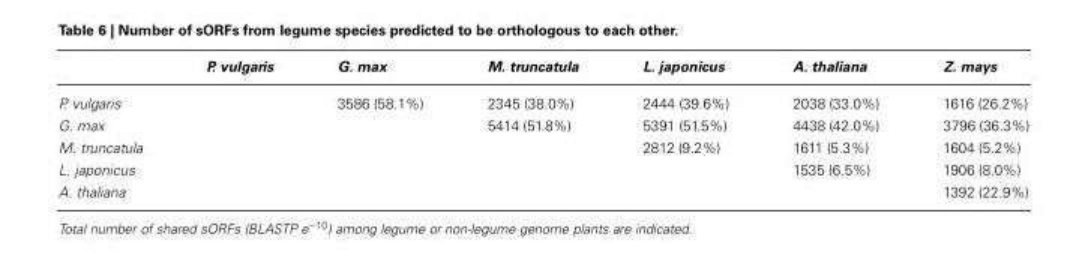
<table><thead><tr><td></td><td>P. vulgaris</td><td>G. max</td><td>M. truncatula</td><td>L. japonicus</td><td>A. thaliana</td><td>Z. mays</td></tr></thead><tbody><tr><td>P. vulgaris</td><td></td><td>3586 (58.1%)</td><td>2345 (38.0%)</td><td>2444 (39.6%)</td><td>2038 (33.0%)</td><td>1616 (26.2%)</td></tr><tr><td>G. max</td><td></td><td></td><td>5414 (51.8%)</td><td>5391 (51.5%)</td><td>4438 (42.0%)</td><td>3796 (36.3%)</td></tr><tr><td>M. truncatula</td><td></td><td></td><td></td><td>2812 (9.2%)</td><td>1611 (5.3%)</td><td>1604 (5.2%)</td></tr><tr><td>L. japonicus</td><td></td><td></td><td></td><td></td><td>1535 (6.5%)</td><td>1906 (8.0%)</td></tr><tr><td>A. thaliana</td><td></td><td></td><td></td><td></td><td></td><td>1392 (22.9%)</td></tr></tbody></table>